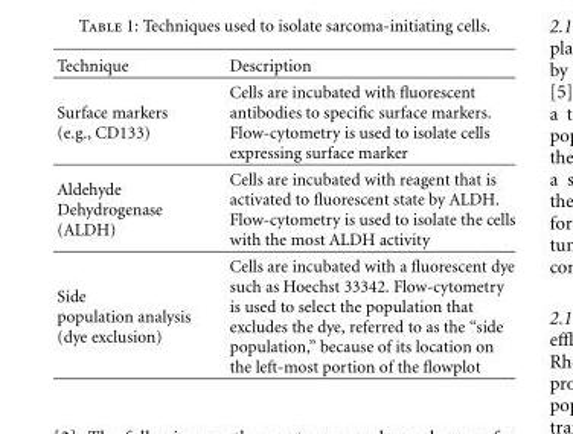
<table><thead><tr><td>Technique</td><td>Description</td></tr></thead><tbody><tr><td>Surface markers (e.g., CD133)</td><td>Cells are incubated with fluorescent antibodies to specific surface markers. Flow-cytometry is used to isolate cells expressing surface marker</td></tr><tr><td>Aldehyde Dehydrogenase (ALDH)</td><td>Cells are incubated with reagent that is activated to fluorescent state by ALDH. Flow-cytometry is used to isolate the cells with the most ALDH activity</td></tr><tr><td>Side population analysis (dye exclusion)</td><td>Cells are incubated with a fluorescent dye such as Hoechst 33342. Flow-cytometry is used to select the population that excludes the dye, referred to as the “side population,” because of its location on the left-most portion of the flowplot</td></tr></tbody></table>